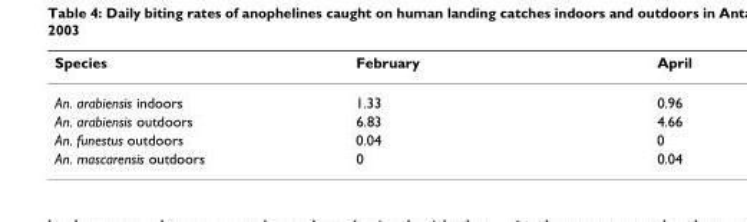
<table><thead><tr><td>Species</td><td>February</td><td>April</td></tr></thead><tbody><tr><td>An. arabiensis indoors</td><td>1.33</td><td>0.96</td></tr><tr><td>An. arabiensis outdoors</td><td>6.83</td><td>4.66</td></tr><tr><td>An. funestus outdoors</td><td>0.04</td><td>0</td></tr><tr><td>An. mascarensis outdoors</td><td>0</td><td>0.04</td></tr></tbody></table>